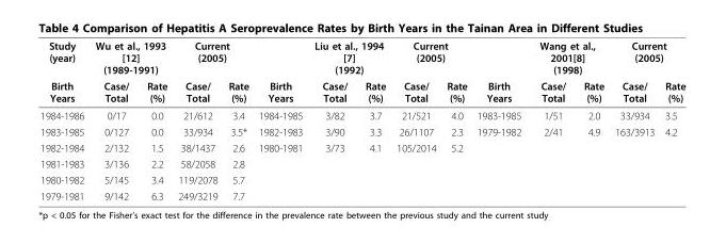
<table><thead><tr><td rowspan="2">Study (year) Birth Years</td><td colspan="2">Wu et al., 1993 [12] (1989-1991)</td><td colspan="2">Current (2005)</td><td rowspan="2">Birth Years</td><td colspan="2">Liu et al., 1994 [7] (1992)</td><td colspan="2">Current (2005)</td><td rowspan="2">Birth Years</td><td colspan="2">Wang et al., 2001[8] (1998)</td><td colspan="2">Current (2005)</td></tr><tr><td>Case/ Total</td><td>Rate (%)</td><td>Case/ Total</td><td>Rate (%)</td><td>Case/ Total</td><td>Rate (%)</td><td>Case/ Total</td><td>Rate (%)</td><td>Case/ Total</td><td>Rate (%)</td><td>Case/ Total</td><td>Rate (%)</td></tr></thead><tbody><tr><td>1984-1986</td><td>0/17</td><td>0.0</td><td>21/612</td><td>3.4</td><td>1984-1985</td><td>3/82</td><td>3.7</td><td>21/521</td><td>4.0</td><td>1983-1985</td><td>1/51</td><td>2.0</td><td>33/934</td><td>3.5</td></tr><tr><td>1983-1985</td><td>0/127</td><td>0.0</td><td>33/934</td><td>3.5*</td><td>1982-1983</td><td>3/90</td><td>3.3</td><td>26/1107</td><td>2.3</td><td>1979-1982</td><td>2/41</td><td>4.9</td><td>163/3913</td><td>4.2</td></tr><tr><td>1982-1984</td><td>2/132</td><td>1.5</td><td>38/1437</td><td>2.6</td><td>1980-1981</td><td>3/73</td><td>4.1</td><td>105/2014</td><td>5.2</td><td></td><td></td><td></td><td></td><td></td></tr><tr><td>1981-1983</td><td>3/136</td><td>2.2</td><td>58/2058</td><td>2.8</td><td></td><td></td><td></td><td></td><td></td><td></td><td></td><td></td><td></td><td></td></tr><tr><td>1980-1982</td><td>5/145</td><td>3.4</td><td>119/2078</td><td>5.7</td><td></td><td></td><td></td><td></td><td></td><td></td><td></td><td></td><td></td><td></td></tr><tr><td>1979-1981</td><td>9/142</td><td>6.3</td><td>249/3219</td><td>7.7</td><td></td><td></td><td></td><td></td><td></td><td></td><td></td><td></td><td></td><td></td></tr></tbody></table>